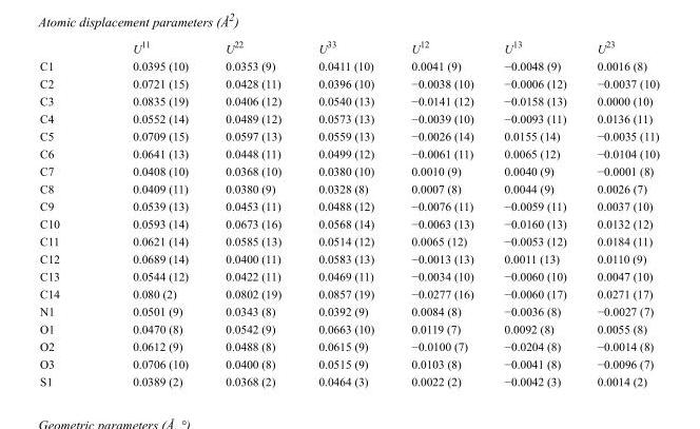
<table><thead><tr><td></td><td>U<sup>11</sup></td><td>U<sup>22</sup></td><td>U<sup>33</sup></td><td>U<sup>12</sup></td><td>U<sup>13</sup></td><td>U<sup>23</sup></td></tr></thead><tbody><tr><td>C1</td><td>0.0395 (10)</td><td>0.0353 (9)</td><td>0.0411 (10)</td><td>0.0041 (9)</td><td>−0.0048 (9)</td><td>0.0016 (8)</td></tr><tr><td>C2</td><td>0.0721 (15)</td><td>0.0428 (11)</td><td>0.0396 (10)</td><td>−0.0038 (10)</td><td>−0.0006 (12)</td><td>−0.0037 (10)</td></tr><tr><td>C3</td><td>0.0835 (19)</td><td>0.0406 (12)</td><td>0.0540 (13)</td><td>−0.0141 (12)</td><td>−0.0158 (13)</td><td>0.0000 (10)</td></tr><tr><td>C4</td><td>0.0552 (14)</td><td>0.0489 (12)</td><td>0.0573 (13)</td><td>−0.0039 (10)</td><td>−0.0093 (11)</td><td>0.0136 (11)</td></tr><tr><td>C5</td><td>0.0709 (15)</td><td>0.0597 (13)</td><td>0.0559 (13)</td><td>−0.0026 (14)</td><td>0.0155 (14)</td><td>−0.0035 (11)</td></tr><tr><td>C6</td><td>0.0641 (13)</td><td>0.0448 (11)</td><td>0.0499 (12)</td><td>−0.0061 (11)</td><td>0.0065 (12)</td><td>−0.0104 (10)</td></tr><tr><td>C7</td><td>0.0408 (10)</td><td>0.0368 (10)</td><td>0.0380 (10)</td><td>0.0010 (9)</td><td>0.0040 (9)</td><td>−0.0001 (8)</td></tr><tr><td>C8</td><td>0.0409 (11)</td><td>0.0380 (9)</td><td>0.0328 (8)</td><td>0.0007 (8)</td><td>0.0044 (9)</td><td>0.0026 (7)</td></tr><tr><td>C9</td><td>0.0539 (13)</td><td>0.0453 (11)</td><td>0.0488 (12)</td><td>−0.0076 (11)</td><td>−0.0059 (11)</td><td>0.0037 (10)</td></tr><tr><td>C10</td><td>0.0593 (14)</td><td>0.0673 (16)</td><td>0.0568 (14)</td><td>−0.0063 (13)</td><td>−0.0160 (13)</td><td>0.0132 (12)</td></tr><tr><td>C11</td><td>0.0621 (14)</td><td>0.0585 (13)</td><td>0.0514 (12)</td><td>0.0065 (12)</td><td>−0.0053 (12)</td><td>0.0184 (11)</td></tr><tr><td>C12</td><td>0.0689 (14)</td><td>0.0400 (11)</td><td>0.0583 (13)</td><td>−0.0013 (13)</td><td>0.0011 (13)</td><td>0.0110 (9)</td></tr><tr><td>C13</td><td>0.0544 (12)</td><td>0.0422 (11)</td><td>0.0469 (11)</td><td>−0.0034 (10)</td><td>−0.0060 (10)</td><td>0.0047 (10)</td></tr><tr><td>C14</td><td>0.080 (2)</td><td>0.0802 (19)</td><td>0.0857 (19)</td><td>−0.0277 (16)</td><td>−0.0060 (17)</td><td>0.0271 (17)</td></tr><tr><td>N1</td><td>0.0501 (9)</td><td>0.0343 (8)</td><td>0.0392 (9)</td><td>0.0084 (8)</td><td>−0.0036 (8)</td><td>−0.0027 (7)</td></tr><tr><td>O1</td><td>0.0470 (8)</td><td>0.0542 (9)</td><td>0.0663 (10)</td><td>0.0119 (7)</td><td>0.0092 (8)</td><td>0.0055 (8)</td></tr><tr><td>O2</td><td>0.0612 (9)</td><td>0.0488 (8)</td><td>0.0615 (9)</td><td>−0.0100 (7)</td><td>−0.0204 (8)</td><td>−0.0014 (8)</td></tr><tr><td>O3</td><td>0.0706 (10)</td><td>0.0400 (8)</td><td>0.0515 (9)</td><td>0.0103 (8)</td><td>−0.0041 (8)</td><td>−0.0096 (7)</td></tr><tr><td>S1</td><td>0.0389 (2)</td><td>0.0368 (2)</td><td>0.0464 (3)</td><td>0.0022 (2)</td><td>−0.0042 (3)</td><td>0.0014 (2)</td></tr></tbody></table>